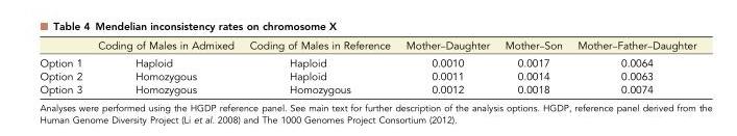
<table><thead><tr><td></td><td>Coding of Males in Admixed</td><td>Coding of Males in Reference</td><td>Mother–Daughter</td><td>Mother–Son</td><td>Mother–Father–Daughter</td></tr></thead><tbody><tr><td>Option 1</td><td>Haploid</td><td>Haploid</td><td>0.0010</td><td>0.0017</td><td>0.0064</td></tr><tr><td>Option 2</td><td>Homozygous</td><td>Haploid</td><td>0.0011</td><td>0.0014</td><td>0.0063</td></tr><tr><td>Option 3</td><td>Homozygous</td><td>Homozygous</td><td>0.0012</td><td>0.0018</td><td>0.0074</td></tr></tbody></table>